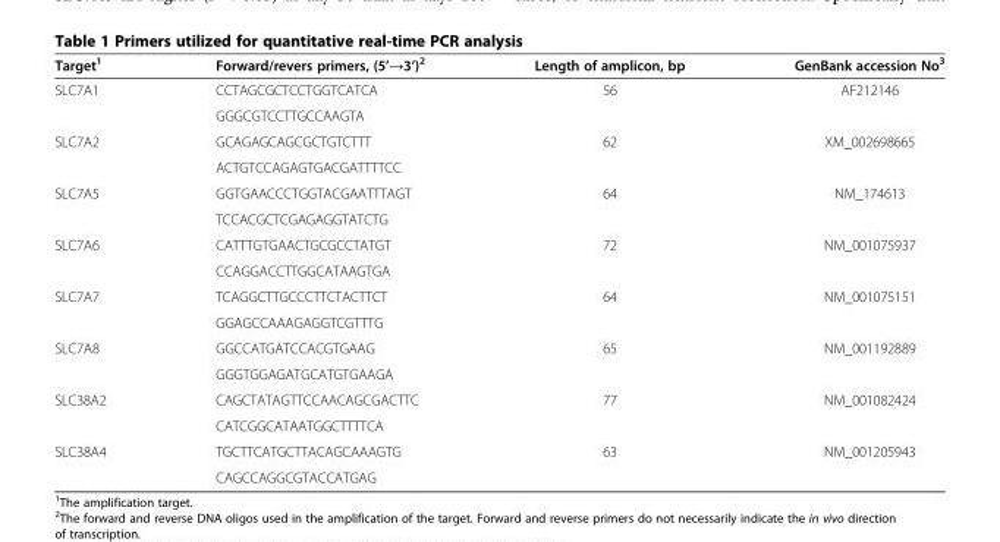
<table><thead><tr><td>Target<sup>1</sup></td><td>Forward/revers primers, (5’→3’)<sup>2</sup></td><td>Length of amplicon, bp</td><td>GenBank accession No<sup>3</sup></td></tr></thead><tbody><tr><td rowspan="2">SLC7A1</td><td>CCTAGCGCTCCTGGTCATCA</td><td>56</td><td>AF212146</td></tr><tr><td>GGGCGTCCTTGCCAAGTA</td><td></td><td></td></tr><tr><td rowspan="2">SLC7A2</td><td>GCAGAGCAGCGCTGTCTTT</td><td>62</td><td>XM_002698665</td></tr><tr><td>ACTGTCCAGAGTGACGATTTTCC</td><td></td><td></td></tr><tr><td rowspan="2">SLC7A5</td><td>GGTGAACCCTGGTACGAATTTAGT</td><td>64</td><td>NM_174613</td></tr><tr><td>TCCACGCTCGAGAGGTATCTG</td><td></td><td></td></tr><tr><td rowspan="2">SLC7A6</td><td>CATTTGTGAACTGCGCCTATGT</td><td>72</td><td>NM_001075937</td></tr><tr><td>CCAGGACCTTGGCATAAGTGA</td><td></td><td></td></tr><tr><td rowspan="2">SLC7A7</td><td>TCAGGCTTGCCCTTCTACTTCT</td><td>64</td><td>NM_001075151</td></tr><tr><td>GGAGCCAAAGAGGTCGTTTG</td><td></td><td></td></tr><tr><td rowspan="2">SLC7A8</td><td>GGCCATGATCCACGTGAAG</td><td>65</td><td>NM_001192889</td></tr><tr><td>GGGTGGAGATGCATGTGAAGA</td><td></td><td></td></tr><tr><td rowspan="2">SLC38A2</td><td>CAGCTATAGTTCCAACAGCGACTTC</td><td>77</td><td>NM_001082424</td></tr><tr><td>CATCGGCATAATGGCTTTTCA</td><td></td><td></td></tr><tr><td rowspan="2">SLC38A4</td><td>TGCTTCATGCTTACAGCAAAGTG</td><td>63</td><td>NM_001205943</td></tr><tr><td>CAGCCAGGCGTACCATGAG</td><td></td><td></td></tr></tbody></table>